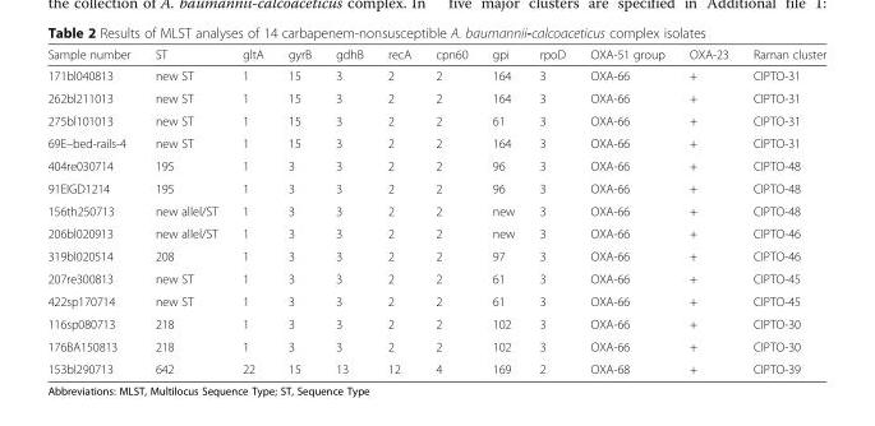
<table><thead><tr><td>Sample number</td><td>ST</td><td>gltA</td><td>gyrB</td><td>gdhB</td><td>recA</td><td>cpn60</td><td>gpi</td><td>rpoD</td><td>OXA-51 group</td><td>OXA-23</td><td>Raman cluster</td></tr></thead><tbody><tr><td>171bl040813</td><td>new ST</td><td>1</td><td>15</td><td>3</td><td>2</td><td>2</td><td>164</td><td>3</td><td>OXA-66</td><td>+</td><td>CIPTO-31</td></tr><tr><td>262bl211013</td><td>new ST</td><td>1</td><td>15</td><td>3</td><td>2</td><td>2</td><td>164</td><td>3</td><td>OXA-66</td><td>+</td><td>CIPTO-31</td></tr><tr><td>275bl101013</td><td>new ST</td><td>1</td><td>15</td><td>3</td><td>2</td><td>2</td><td>61</td><td>3</td><td>OXA-66</td><td>+</td><td>CIPTO-31</td></tr><tr><td>69E–bed-rails-4</td><td>new ST</td><td>1</td><td>15</td><td>3</td><td>2</td><td>2</td><td>164</td><td>3</td><td>OXA-66</td><td>+</td><td>CIPTO-31</td></tr><tr><td>404re030714</td><td>195</td><td>1</td><td>3</td><td>3</td><td>2</td><td>2</td><td>96</td><td>3</td><td>OXA-66</td><td>+</td><td>CIPTO-48</td></tr><tr><td>91EIGD1214</td><td>195</td><td>1</td><td>3</td><td>3</td><td>2</td><td>2</td><td>96</td><td>3</td><td>OXA-66</td><td>+</td><td>CIPTO-48</td></tr><tr><td>156th250713</td><td>new allel/ST</td><td>1</td><td>3</td><td>3</td><td>2</td><td>2</td><td>new</td><td>3</td><td>OXA-66</td><td>+</td><td>CIPTO-48</td></tr><tr><td>206bl020913</td><td>new allel/ST</td><td>1</td><td>3</td><td>3</td><td>2</td><td>2</td><td>new</td><td>3</td><td>OXA-66</td><td>+</td><td>CIPTO-46</td></tr><tr><td>319bl020514</td><td>208</td><td>1</td><td>3</td><td>3</td><td>2</td><td>2</td><td>97</td><td>3</td><td>OXA-66</td><td>+</td><td>CIPTO-46</td></tr><tr><td>207re300813</td><td>new ST</td><td>1</td><td>3</td><td>3</td><td>2</td><td>2</td><td>61</td><td>3</td><td>OXA-66</td><td>+</td><td>CIPTO-45</td></tr><tr><td>422sp170714</td><td>new ST</td><td>1</td><td>3</td><td>3</td><td>2</td><td>2</td><td>61</td><td>3</td><td>OXA-66</td><td>+</td><td>CIPTO-45</td></tr><tr><td>116sp080713</td><td>218</td><td>1</td><td>3</td><td>3</td><td>2</td><td>2</td><td>102</td><td>3</td><td>OXA-66</td><td>+</td><td>CIPTO-30</td></tr><tr><td>176BA150813</td><td>218</td><td>1</td><td>3</td><td>3</td><td>2</td><td>2</td><td>102</td><td>3</td><td>OXA-66</td><td>+</td><td>CIPTO-30</td></tr><tr><td>153bl290713</td><td>642</td><td>22</td><td>15</td><td>13</td><td>12</td><td>4</td><td>169</td><td>2</td><td>OXA-68</td><td>+</td><td>CIPTO-39</td></tr></tbody></table>